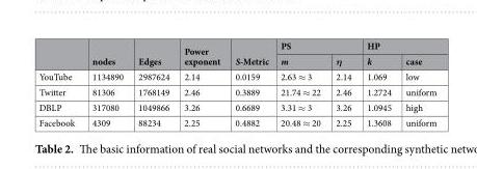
<table><thead><tr><td rowspan="2"></td><td rowspan="2">nodes</td><td rowspan="2">Edges</td><td rowspan="2">Power exponent</td><td rowspan="2">S-Metric</td><td colspan="2">PS</td><td colspan="2">HP</td></tr><tr><td>m</td><td>η</td><td>k</td><td>case</td></tr></thead><tbody><tr><td>YouTube</td><td>1134890</td><td>2987624</td><td>2.14</td><td>0.0159</td><td>2.63 ≈ 3</td><td>2.14</td><td>1.069</td><td>low</td></tr><tr><td>Twitter</td><td>81306</td><td>1768149</td><td>2.46</td><td>0.3889</td><td>21.74 ≈ 22</td><td>2.46</td><td>1.2724</td><td>uniform</td></tr><tr><td>DBLP</td><td>317080</td><td>1049866</td><td>3.26</td><td>0.6689</td><td>3.31 ≈ 3</td><td>3.26</td><td>1.0945</td><td>high</td></tr><tr><td>Facebook</td><td>4309</td><td>88234</td><td>2.25</td><td>0.4882</td><td>20.48 ≈ 20</td><td>2.25</td><td>1.3608</td><td>uniform</td></tr></tbody></table>